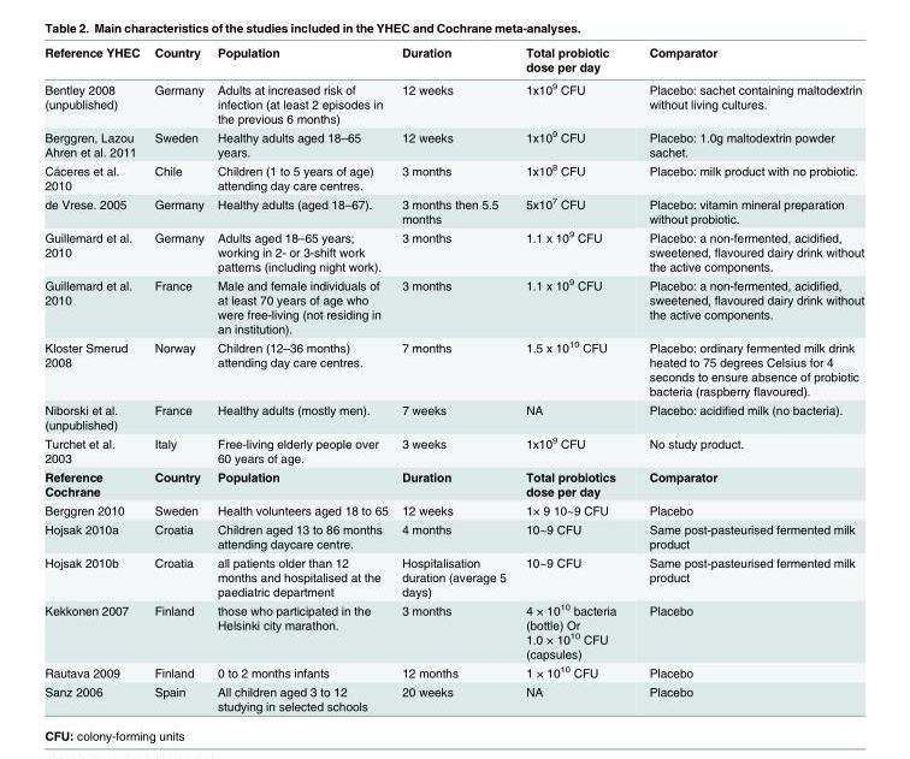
<table><thead><tr><td>Reference YHEC</td><td>Country</td><td>Population</td><td>Duration</td><td>Total probiotic dose per day</td><td>Comparator</td></tr></thead><tbody><tr><td>Bentley 2008 (unpublished)</td><td>Germany</td><td>Adults at increased risk of infection (at least 2 episodes in the previous 6 months)</td><td>12 weeks</td><td>1x10<sup>9</sup> CFU</td><td>Placebo: sachet containing maltodextrin without living cultures.</td></tr><tr><td>Berggren, Lazou Ahren et al. 2011</td><td>Sweden</td><td>Healthy adults aged 18–65 years.</td><td>12 weeks</td><td>1x10<sup>9</sup> CFU</td><td>Placebo: 1.0g maltodextrin powder sachet.</td></tr><tr><td>Cáceres et al. 2010</td><td>Chile</td><td>Children (1 to 5 years of age) attending day care centres.</td><td>3 months</td><td>1x10<sup>8</sup> CFU</td><td>Placebo: milk product with no probiotic.</td></tr><tr><td>de Vrese. 2005</td><td>Germany</td><td>Healthy adults (aged 18–67).</td><td>3 months then 5.5 months</td><td>5x10<sup>7</sup> CFU</td><td>Placebo: vitamin mineral preparation without probiotic.</td></tr><tr><td>Guillemard et al. 2010</td><td>Germany</td><td>Adults aged 18–65 years; working in 2- or 3-shift work patterns (including night work).</td><td>3 months</td><td>1.1 x 10<sup>9</sup> CFU</td><td>Placebo: a non-fermented, acidified, sweetened, flavoured dairy drink without the active components.</td></tr><tr><td>Guillemard et al. 2010</td><td>France</td><td>Male and female individuals of at least 70 years of age who were free-living (not residing in an institution).</td><td>3 months</td><td>1.1 x 10<sup>9</sup> CFU</td><td>Placebo: a non-fermented, acidified, sweetened, flavoured dairy drink without the active components.</td></tr><tr><td>Kloster Smerud 2008</td><td>Norway</td><td>Children (12–36 months) attending day care centres.</td><td>7 months</td><td>1.5 x 10<sup>10</sup> CFU</td><td>Placebo: ordinary fermented milk drink heated to 75 degrees Celsius for 4 seconds to ensure absence of probiotic bacteria (raspberry flavoured).</td></tr><tr><td>Niborski et al. (unpublished)</td><td>France</td><td>Healthy adults (mostly men).</td><td>7 weeks</td><td>NA</td><td>Placebo: acidified milk (no bacteria).</td></tr><tr><td>Turchet et al. 2003</td><td>Italy</td><td>Free-living elderly people over 60 years of age.</td><td>3 weeks</td><td>1x10<sup>9</sup> CFU</td><td>No study product.</td></tr><tr><td>Reference Cochrane</td><td>Country</td><td>Population</td><td>Duration</td><td>Total probiotics dose per day</td><td>Comparator</td></tr><tr><td>Berggren 2010</td><td>Sweden</td><td>Health volunteers aged 18 to 65</td><td>12 weeks</td><td>1× 9 10~9 CFU</td><td>Placebo</td></tr><tr><td>Hojsak 2010a</td><td>Croatia</td><td>Children aged 13 to 86 months attending daycare centre.</td><td>4 months</td><td>10~9 CFU</td><td>Same post-pasteurised fermented milk product</td></tr><tr><td>Hojsak 2010b</td><td>Croatia</td><td>all patients older than 12 months and hospitalised at the paediatric department</td><td>Hospitalisation duration (average 5 days)</td><td>10~9 CFU</td><td>Same post-pasteurised fermented milk product</td></tr><tr><td>Kekkonen 2007</td><td>Finland</td><td>those who participated in the Helsinki city marathon.</td><td>3 months</td><td>4 × 10<sup>10</sup> bacteria (bottle) Or 1.0 × 10<sup>10</sup> CFU (capsules)</td><td>Placebo</td></tr><tr><td>Rautava 2009</td><td>Finland</td><td>0 to 2 months infants</td><td>12 months</td><td>1 × 10<sup>10</sup> CFU</td><td>Placebo</td></tr><tr><td>Sanz 2006</td><td>Spain</td><td>All children aged 3 to 12 studying in selected schools</td><td>20 weeks</td><td>NA</td><td>Placebo</td></tr></tbody></table>